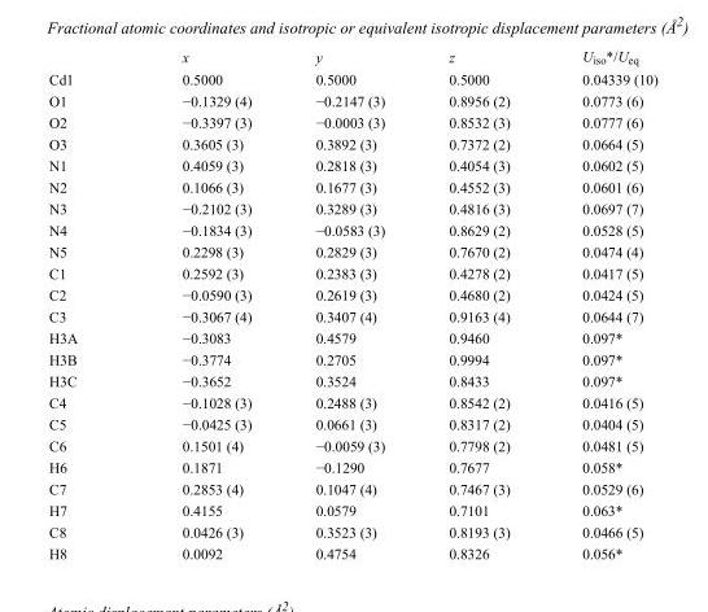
<table><thead><tr><td></td><td>x</td><td>y</td><td>z</td><td>U<sub>iso</sub>*/U<sub>eq</sub></td></tr></thead><tbody><tr><td>Cd1</td><td>0.5000</td><td>0.5000</td><td>0.5000</td><td>0.04339 (10)</td></tr><tr><td>O1</td><td>−0.1329 (4)</td><td>−0.2147 (3)</td><td>0.8956 (2)</td><td>0.0773 (6)</td></tr><tr><td>O2</td><td>−0.3397 (3)</td><td>−0.0003 (3)</td><td>0.8532 (3)</td><td>0.0777 (6)</td></tr><tr><td>O3</td><td>0.3605 (3)</td><td>0.3892 (3)</td><td>0.7372 (2)</td><td>0.0664 (5)</td></tr><tr><td>N1</td><td>0.4059 (3)</td><td>0.2818 (3)</td><td>0.4054 (3)</td><td>0.0602 (5)</td></tr><tr><td>N2</td><td>0.1066 (3)</td><td>0.1677 (3)</td><td>0.4552 (3)</td><td>0.0601 (6)</td></tr><tr><td>N3</td><td>−0.2102 (3)</td><td>0.3289 (3)</td><td>0.4816 (3)</td><td>0.0697 (7)</td></tr><tr><td>N4</td><td>−0.1834 (3)</td><td>−0.0583 (3)</td><td>0.8629 (2)</td><td>0.0528 (5)</td></tr><tr><td>N5</td><td>0.2298 (3)</td><td>0.2829 (3)</td><td>0.7670 (2)</td><td>0.0474 (4)</td></tr><tr><td>C1</td><td>0.2592 (3)</td><td>0.2383 (3)</td><td>0.4278 (2)</td><td>0.0417 (5)</td></tr><tr><td>C2</td><td>−0.0590 (3)</td><td>0.2619 (3)</td><td>0.4680 (2)</td><td>0.0424 (5)</td></tr><tr><td>C3</td><td>−0.3067 (4)</td><td>0.3407 (4)</td><td>0.9163 (4)</td><td>0.0644 (7)</td></tr><tr><td>H3A</td><td>−0.3083</td><td>0.4579</td><td>0.9460</td><td>0.097*</td></tr><tr><td>H3B</td><td>−0.3774</td><td>0.2705</td><td>0.9994</td><td>0.097*</td></tr><tr><td>H3C</td><td>−0.3652</td><td>0.3524</td><td>0.8433</td><td>0.097*</td></tr><tr><td>C4</td><td>−0.1028 (3)</td><td>0.2488 (3)</td><td>0.8542 (2)</td><td>0.0416 (5)</td></tr><tr><td>C5</td><td>−0.0425 (3)</td><td>0.0661 (3)</td><td>0.8317 (2)</td><td>0.0404 (5)</td></tr><tr><td>C6</td><td>0.1501 (4)</td><td>−0.0059 (3)</td><td>0.7798 (2)</td><td>0.0481 (5)</td></tr><tr><td>H6</td><td>0.1871</td><td>−0.1290</td><td>0.7677</td><td>0.058*</td></tr><tr><td>C7</td><td>0.2853 (4)</td><td>0.1047 (4)</td><td>0.7467 (3)</td><td>0.0529 (6)</td></tr><tr><td>H7</td><td>0.4155</td><td>0.0579</td><td>0.7101</td><td>0.063*</td></tr><tr><td>C8</td><td>0.0426 (3)</td><td>0.3523 (3)</td><td>0.8193 (3)</td><td>0.0466 (5)</td></tr><tr><td>H8</td><td>0.0092</td><td>0.4754</td><td>0.8326</td><td>0.056*</td></tr></tbody></table>